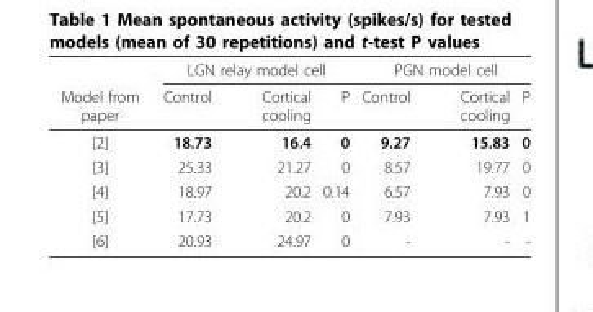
<table><thead><tr><td rowspan="2">Model from paper</td><td colspan="3">LGN relay model cell</td><td colspan="3">PGN model cell</td></tr><tr><td>Control</td><td>Cortical cooling</td><td>P</td><td>Control</td><td>Cortical cooling</td><td>P</td></tr></thead><tbody><tr><td>[2]</td><td>18.73</td><td>16.4</td><td>0</td><td>9.27</td><td>15.83</td><td>0</td></tr><tr><td>[3]</td><td>25.33</td><td>21.27</td><td>0</td><td>8.57</td><td>19.77</td><td>0</td></tr><tr><td>[4]</td><td>18.97</td><td>20.2</td><td>0.14</td><td>6.57</td><td>7.93</td><td>0</td></tr><tr><td>[5]</td><td>17.73</td><td>20.2</td><td>0</td><td>7.93</td><td>7.93</td><td>1</td></tr><tr><td>[6]</td><td>20.93</td><td>24.97</td><td>0</td><td>-</td><td>-</td><td>-</td></tr></tbody></table>